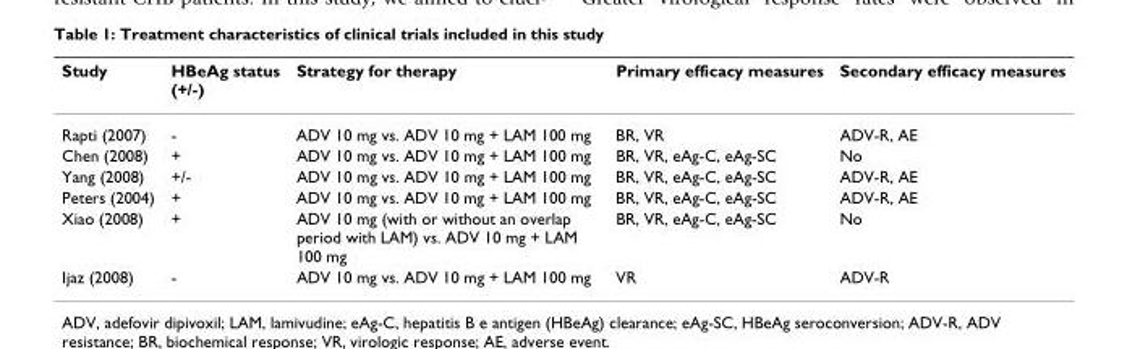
<table><thead><tr><td>Study</td><td>HBeAg status (+/-)</td><td>Strategy for therapy</td><td>Primary efficacy measures</td><td>Secondary efficacy measures</td></tr></thead><tbody><tr><td>Rapti (2007)</td><td>-</td><td>ADV 10 mg vs. ADV 10 mg + LAM 100 mg</td><td>BR, VR</td><td>ADV-R, AE</td></tr><tr><td>Chen (2008)</td><td>+</td><td>ADV 10 mg vs. ADV 10 mg + LAM 100 mg</td><td>BR, VR, eAg-C, eAg-SC</td><td>No</td></tr><tr><td>Yang (2008)</td><td>+/-</td><td>ADV 10 mg vs. ADV 10 mg + LAM 100 mg</td><td>BR, VR, eAg-C, eAg-SC</td><td>ADV-R, AE</td></tr><tr><td>Peters (2004)</td><td>+</td><td>ADV 10 mg vs. ADV 10 mg + LAM 100 mg</td><td>BR, VR, eAg-C, eAg-SC</td><td>ADV-R, AE</td></tr><tr><td>Xiao (2008)</td><td>+</td><td>ADV 10 mg (with or without an overlap period with LAM) vs. ADV 10 mg + LAM 100 mg</td><td>BR, VR, eAg-C, eAg-SC</td><td>No</td></tr><tr><td>Ijaz (2008)</td><td>-</td><td>ADV 10 mg vs. ADV 10 mg + LAM 100 mg</td><td>VR</td><td>ADV-R</td></tr></tbody></table>